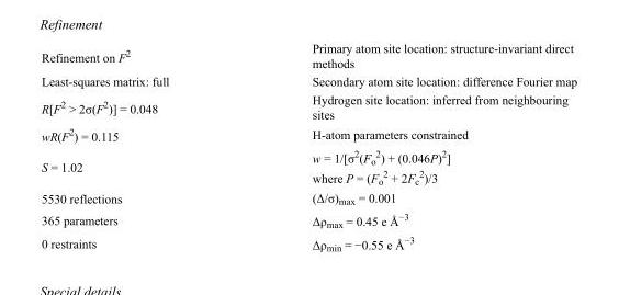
<table><tbody><tr><td>Refinement on F<sup>2</sup></td><td>Primary atom site location: structure-invariant direct methods</td></tr><tr><td>Least-squares matrix: full</td><td>Secondary atom site location: difference Fourier map</td></tr><tr><td>R[F<sup>2</sup> &gt; 2σ(F<sup>2</sup>)] = 0.048</td><td>Hydrogen site location: inferred from neighbouring sites</td></tr><tr><td>wR(F<sup>2</sup>) = 0.115</td><td>H-atom parameters constrained</td></tr><tr><td>S = 1.02</td><td>w = 1/[σ<sup>2</sup>(F<sub>o</sub> <sup>2</sup>) + (0.046P)<sup>2</sup>] where P = (F<sub>o</sub> <sup>2</sup> + 2F<sub>c</sub> <sup>2</sup>)/3</td></tr><tr><td>5530 reflections</td><td>(Δ/σ)<sub>max</sub> = 0.001</td></tr><tr><td>365 parameters</td><td>Δρ<sub>max</sub> = 0.45 e Å<sup>−3</sup></td></tr><tr><td>0 restraints</td><td>Δρ<sub>min</sub> = −0.55 e Å<sup>−3</sup></td></tr></tbody></table>